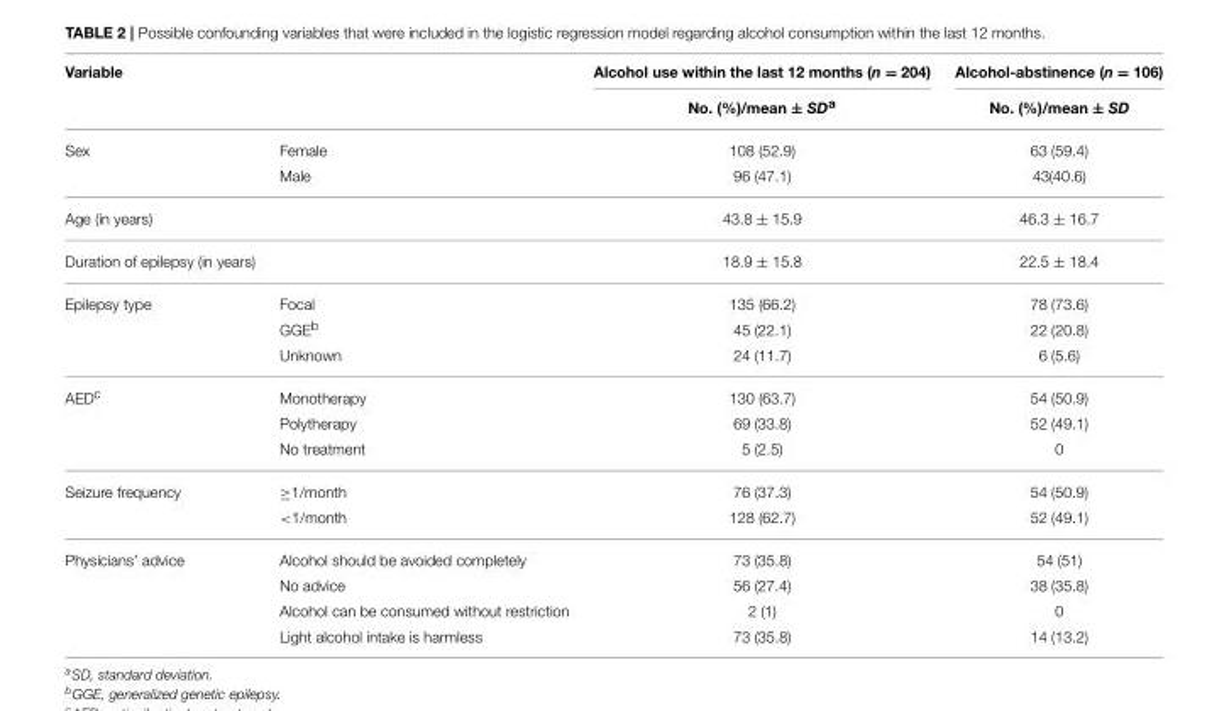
<table><thead><tr><td rowspan="2">Variable</td><td rowspan="2"></td><td rowspan="2">Alcohol use within the last 12 months (n = 204) No. (%)/mean ± SD<sup>a</sup></td><td rowspan="2">Alcohol-abstinence (n = 106) No. (%)/mean ± SD</td></tr><tr></tr></thead><tbody><tr><td rowspan="2">Sex</td><td>Female</td><td>108 (52.9)</td><td>63 (59.4)</td></tr><tr><td>Male</td><td>96 (47.1)</td><td>43(40.6)</td></tr><tr><td>Age (in years)</td><td></td><td>43.8 ± 15.9</td><td>46.3 ± 16.7</td></tr><tr><td>Duration of epilepsy (in years)</td><td></td><td>18.9 ± 15.8</td><td>22.5 ± 18.4</td></tr><tr><td rowspan="3">Epilepsy type</td><td>Focal</td><td>135 (66.2)</td><td>78 (73.6)</td></tr><tr><td>GGE<sup>b</sup></td><td>45 (22.1)</td><td>22 (20.8)</td></tr><tr><td>Unknown</td><td>24 (11.7)</td><td>6 (5.6)</td></tr><tr><td rowspan="3">AED<sup>c</sup></td><td>Monotherapy</td><td>130 (63.7)</td><td>54 (50.9)</td></tr><tr><td>Polytherapy</td><td>69 (33.8)</td><td>52 (49.1)</td></tr><tr><td>No treatment</td><td>5 (2.5)</td><td>0</td></tr><tr><td rowspan="2">Seizure frequency</td><td>≥1/month</td><td>76 (37.3)</td><td>54 (50.9)</td></tr><tr><td>&lt;1/month</td><td>128 (62.7)</td><td>52 (49.1)</td></tr><tr><td rowspan="4">Physicians’ advice</td><td>Alcohol should be avoided completely</td><td>73 (35.8)</td><td>54 (51)</td></tr><tr><td>No advice</td><td>56 (27.4)</td><td>38 (35.8)</td></tr><tr><td>Alcohol can be consumed without restriction</td><td>2 (1)</td><td>0</td></tr><tr><td>Light alcohol intake is harmless</td><td>73 (35.8)</td><td>14 (13.2)</td></tr></tbody></table>